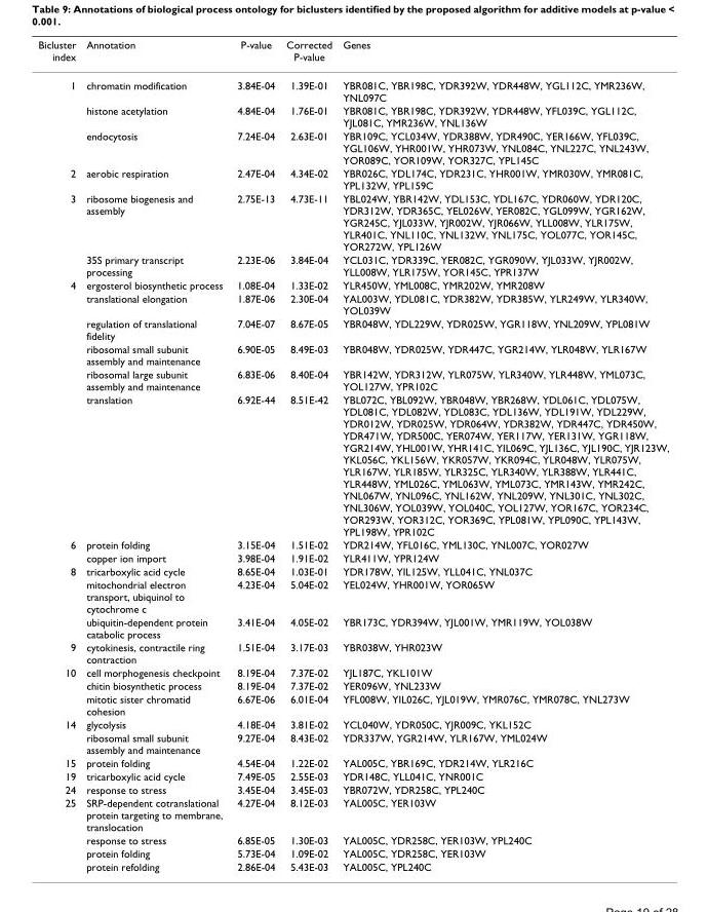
<table><thead><tr><td>Bicluster index</td><td>Annotation</td><td>P-value</td><td>Corrected P-value</td><td>Genes</td></tr></thead><tbody><tr><td rowspan="3">1</td><td>chromatin modification</td><td>3.84E-04</td><td>1.39E-01</td><td>YBR081C, YBR198C, YDR392W, YDR448W, YGL112C, YMR236W, YNL097C</td></tr><tr><td>histone acetylation</td><td>4.84E-04</td><td>1.76E-01</td><td>YBR081C, YBR198C, YDR392W, YDR448W, YFL039C, YGL112C, YJL081C, YMR236W, YNL136W</td></tr><tr><td>endocytosis</td><td>7.24E-04</td><td>2.63E-01</td><td>YBR109C, YCL034W, YDR388W, YDR490C, YER166W, YFL039C, YGL106W, YHR001W, YHR073W, YNL084C, YNL227C, YNL243W, YOR089C, YOR109W, YOR327C, YPL145C</td></tr><tr><td>2</td><td>aerobic respiration</td><td>2.47E-04</td><td>4.34E-02</td><td>YBR026C, YDL174C, YDR231C, YHR001W, YMR030W, YMR081C, YPL132W, YPL159C</td></tr><tr><td rowspan="2">3</td><td>ribosome biogenesis and assembly</td><td>2.75E-13</td><td>4.73E-11</td><td>YBL024W, YBR142W, YDL153C, YDL167C, YDR060W, YDR120C, YDR312W, YDR365C, YEL026W, YER082C, YGL099W, YGR162W, YGR245C, YJL033W, YJR002W, YJR066W, YLL008W, YLR175W, YLR401C, YNL110C, YNL132W, YNL175C, YOL077C, YOR145C, YOR272W, YPL126W</td></tr><tr><td>35S primary transcript processing</td><td>2.23E-06</td><td>3.84E-04</td><td>YCL031C, YDR339C, YER082C, YGR090W, YJL033W, YJR002W, YLL008W, YLR175W, YOR145C, YPR137W</td></tr><tr><td rowspan="6">4</td><td>ergosterol biosynthetic process</td><td>1.08E-04</td><td>1.33E-02</td><td>YLR450W, YML008C, YMR202W, YMR208W</td></tr><tr><td>translational elongation</td><td>1.87E-06</td><td>2.30E-04</td><td>YAL003W, YDL081C, YDR382W, YDR385W, YLR249W, YLR340W, YOL039W</td></tr><tr><td>regulation of translational fidelity</td><td>7.04E-07</td><td>8.67E-05</td><td>YBR048W, YDL229W, YDR025W, YGR118W, YNL209W, YPL081W</td></tr><tr><td>ribosomal small subunit assembly and maintenance</td><td>6.90E-05</td><td>8.49E-03</td><td>YBR048W, YDR025W, YDR447C, YGR214W, YLR048W, YLR167W</td></tr><tr><td>ribosomal large subunit assembly and maintenance</td><td>6.83E-06</td><td>8.40E-04</td><td>YBR142W, YDR312W, YLR075W, YLR340W, YLR448W, YML073C, YOL127W, YPR102C</td></tr><tr><td>translation</td><td>6.92E-44</td><td>8.51E-42</td><td>YBL072C, YBL092W, YBR048W, YBR268W, YDL061C, YDL075W, YDL081C, YDL082W, YDL083C, YDL136W, YDL191W, YDL229W, YDR012W, YDR025W, YDR064W, YDR382W, YDR447C, YDR450W, YDR471W, YDR500C, YER074W, YER117W, YER131W, YGR118W, YGR214W, YHL001W, YHR141C, YIL069C, YJL136C, YJL190C, YJR123W, YKL056C, YKL156W, YKR057W, YKR094C, YLR048W, YLR075W, YLR167W, YLR185W, YLR325C, YLR340W, YLR388W, YLR441C, YLR448W, YML026C, YML063W, YML073C, YMR143W, YMR242C, YNL067W, YNL096C, YNL162W, YNL209W, YNL301C, YNL302C, YNL306W, YOL039W, YOL040C, YOL127W, YOR167C, YOR234C, YOR293W, YOR312C, YOR369C, YPL081W, YPL090C, YPL143W, YPL198W, YPR102C</td></tr><tr><td rowspan="2">6</td><td>protein folding</td><td>3.15E-04</td><td>1.51E-02</td><td>YDR214W, YFL016C, YML130C, YNL007C, YOR027W</td></tr><tr><td>copper ion import</td><td>3.98E-04</td><td>1.91E-02</td><td>YLR411W, YPR124W</td></tr><tr><td rowspan="3">8</td><td>tricarboxylic acid cycle</td><td>8.65E-04</td><td>1.03E-01</td><td>YDR178W, YIL125W, YLL041C, YNL037C</td></tr><tr><td>mitochondrial electron transport, ubiquinol to cytochrome c</td><td>4.23E-04</td><td>5.04E-02</td><td>YEL024W, YHR001W, YOR065W</td></tr><tr><td>ubiquitin-dependent protein catabolic process</td><td>3.41E-04</td><td>4.05E-02</td><td>YBR173C, YDR394W, YJL001W, YMR119W, YOL038W</td></tr><tr><td>9</td><td>cytokinesis, contractile ring contraction</td><td>1.51E-04</td><td>3.17E-03</td><td>YBR038W, YHR023W</td></tr><tr><td rowspan="3">10</td><td>cell morphogenesis checkpoint</td><td>8.19E-04</td><td>7.37E-02</td><td>YJL187C, YKL101W</td></tr><tr><td>chitin biosynthetic process</td><td>8.19E-04</td><td>7.37E-02</td><td>YER096W, YNL233W</td></tr><tr><td>mitotic sister chromatid cohesion</td><td>6.67E-06</td><td>6.01E-04</td><td>YFL008W, YIL026C, YJL019W, YMR076C, YMR078C, YNL273W</td></tr><tr><td rowspan="2">14</td><td>glycolysis</td><td>4.18E-04</td><td>3.81E-02</td><td>YCL040W, YDR050C, YJR009C, YKL152C</td></tr><tr><td>ribosomal small subunit assembly and maintenance</td><td>9.27E-04</td><td>8.43E-02</td><td>YDR337W, YGR214W, YLR167W, YML024W</td></tr><tr><td>15</td><td>protein folding</td><td>4.54E-04</td><td>1.22E-02</td><td>YAL005C, YBR169C, YDR214W, YLR216C</td></tr><tr><td>19</td><td>tricarboxylic acid cycle</td><td>7.49E-05</td><td>2.55E-03</td><td>YDR148C, YLL041C, YNR001C</td></tr><tr><td>24</td><td>response to stress</td><td>3.45E-04</td><td>3.45E-03</td><td>YBR072W, YDR258C, YPL240C</td></tr><tr><td rowspan="4">25</td><td>SRP-dependent cotranslational protein targeting to membrane, translocation</td><td>4.27E-04</td><td>8.12E-03</td><td>YAL005C, YER103W</td></tr><tr><td>response to stress</td><td>6.85E-05</td><td>1.30E-03</td><td>YAL005C, YDR258C, YER103W, YPL240C</td></tr><tr><td>protein folding</td><td>5.73E-04</td><td>1.09E-02</td><td>YAL005C, YDR258C, YER103W</td></tr><tr><td>protein refolding</td><td>2.86E-04</td><td>5.43E-03</td><td>YAL005C, YPL240C</td></tr></tbody></table>